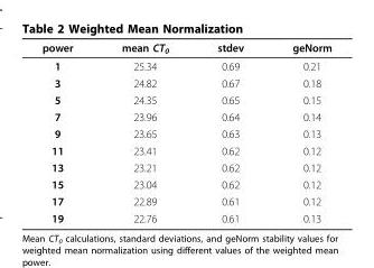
<table><thead><tr><td>power</td><td>mean CT<sub>0</sub></td><td>stdev</td><td>geNorm</td></tr></thead><tbody><tr><td>1</td><td>25.34</td><td>0.69</td><td>0.21</td></tr><tr><td>3</td><td>24.82</td><td>0.67</td><td>0.18</td></tr><tr><td>5</td><td>24.35</td><td>0.65</td><td>0.15</td></tr><tr><td>7</td><td>23.96</td><td>0.64</td><td>0.14</td></tr><tr><td>9</td><td>23.65</td><td>0.63</td><td>0.13</td></tr><tr><td>11</td><td>23.41</td><td>0.62</td><td>0.12</td></tr><tr><td>13</td><td>23.21</td><td>0.62</td><td>0.12</td></tr><tr><td>15</td><td>23.04</td><td>0.62</td><td>0.12</td></tr><tr><td>17</td><td>22.89</td><td>0.61</td><td>0.12</td></tr><tr><td>19</td><td>22.76</td><td>0.61</td><td>0.13</td></tr></tbody></table>